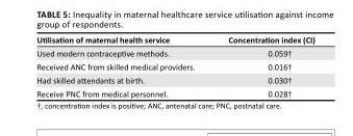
<table><thead><tr><td>Utilisation of maternal health service</td><td>Concentration index (CI)</td></tr></thead><tbody><tr><td>Used modern contraceptive methods.</td><td>0.059†</td></tr><tr><td>Received ANC from skilled medical providers.</td><td>0.016†</td></tr><tr><td>Had skilled attendants at birth.</td><td>0.030†</td></tr><tr><td>Receive PNC from medical personnel.</td><td>0.028†</td></tr></tbody></table>